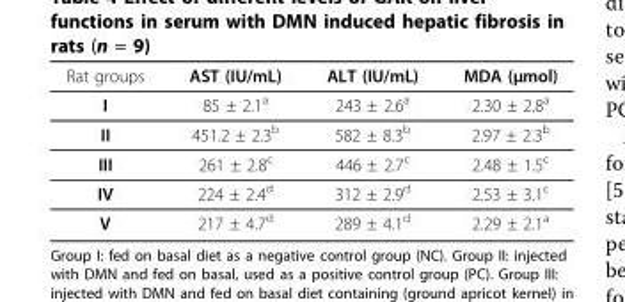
<table><thead><tr><td>Rat groups</td><td>AST (IU/mL)</td><td>ALT (IU/mL)</td><td>MDA (μmol)</td></tr></thead><tbody><tr><td>I</td><td>85 ± 2.1<sup>a</sup></td><td>243 ± 2.6<sup>a</sup></td><td>2.30 ± 2.8<sup>a</sup></td></tr><tr><td>II</td><td>451.2 ± 2.3<sup>b</sup></td><td>582 ± 8.3<sup>b</sup></td><td>2.97 ± 2.3<sup>b</sup></td></tr><tr><td>III</td><td>261 ± 2.8<sup>c</sup></td><td>446 ± 2.7<sup>c</sup></td><td>2.48 ± 1.5<sup>c</sup></td></tr><tr><td>IV</td><td>224 ± 2.4<sup>d</sup></td><td>312 ± 2.9<sup>d</sup></td><td>2.53 ± 3.1<sup>c</sup></td></tr><tr><td>V</td><td>217 ± 4.7<sup>d</sup></td><td>289 ± 4.1<sup>d</sup></td><td>2.29 ± 2.1<sup>a</sup></td></tr></tbody></table>